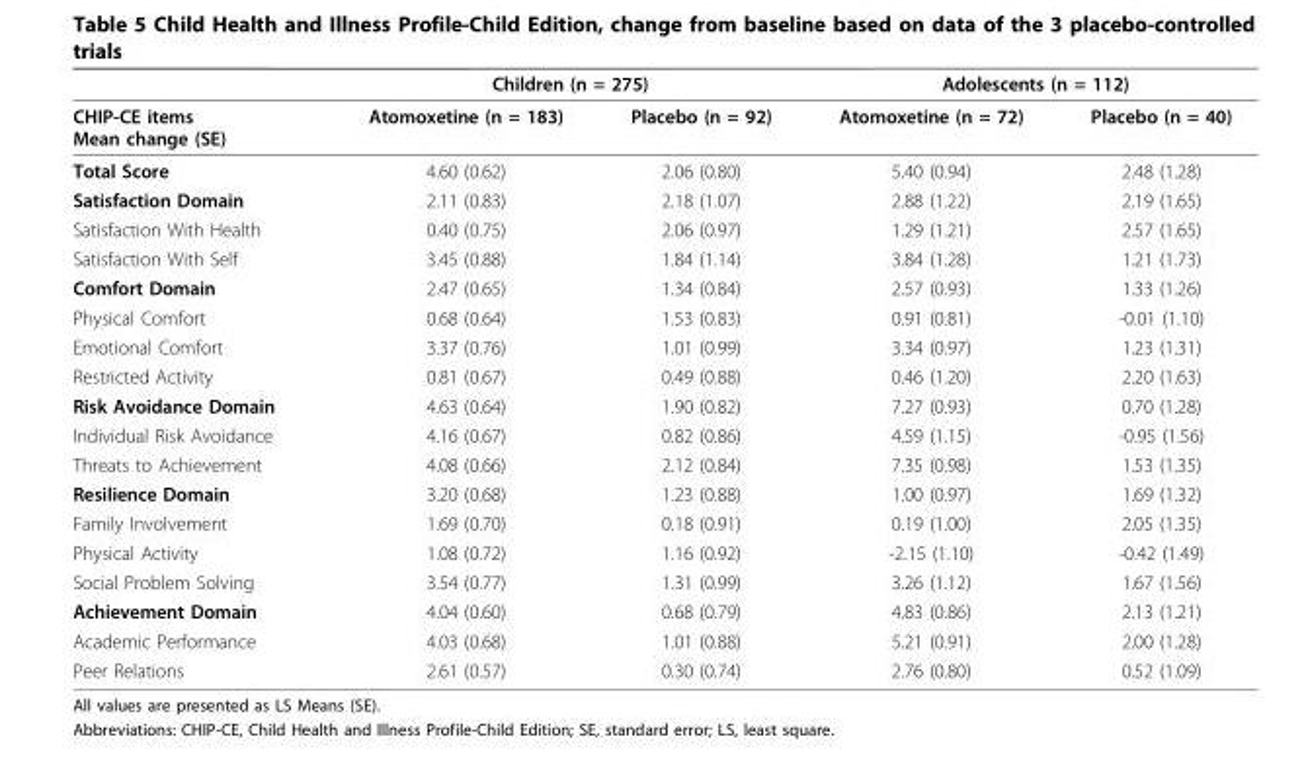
<table><thead><tr><td rowspan="2">CHIP-CE items Mean change (SE)</td><td colspan="2">Children (n = 275)</td><td colspan="2">Adolescents (n = 112)</td></tr><tr><td>Atomoxetine (n = 183)</td><td>Placebo (n = 92)</td><td>Atomoxetine (n = 72)</td><td>Placebo (n = 40)</td></tr></thead><tbody><tr><td>Total Score</td><td>4.60 (0.62)</td><td>2.06 (0.80)</td><td>5.40 (0.94)</td><td>2.48 (1.28)</td></tr><tr><td>Satisfaction Domain</td><td>2.11 (0.83)</td><td>2.18 (1.07)</td><td>2.88 (1.22)</td><td>2.19 (1.65)</td></tr><tr><td>Satisfaction With Health</td><td>0.40 (0.75)</td><td>2.06 (0.97)</td><td>1.29 (1.21)</td><td>2.57 (1.65)</td></tr><tr><td>Satisfaction With Self</td><td>3.45 (0.88)</td><td>1.84 (1.14)</td><td>3.84 (1.28)</td><td>1.21 (1.73)</td></tr><tr><td>Comfort Domain</td><td>2.47 (0.65)</td><td>1.34 (0.84)</td><td>2.57 (0.93)</td><td>1.33 (1.26)</td></tr><tr><td>Physical Comfort</td><td>0.68 (0.64)</td><td>1.53 (0.83)</td><td>0.91 (0.81)</td><td>-0.01 (1.10)</td></tr><tr><td>Emotional Comfort</td><td>3.37 (0.76)</td><td>1.01 (0.99)</td><td>3.34 (0.97)</td><td>1.23 (1.31)</td></tr><tr><td>Restricted Activity</td><td>0.81 (0.67)</td><td>0.49 (0.88)</td><td>0.46 (1.20)</td><td>2.20 (1.63)</td></tr><tr><td>Risk Avoidance Domain</td><td>4.63 (0.64)</td><td>1.90 (0.82)</td><td>7.27 (0.93)</td><td>0.70 (1.28)</td></tr><tr><td>Individual Risk Avoidance</td><td>4.16 (0.67)</td><td>0.82 (0.86)</td><td>4.59 (1.15)</td><td>-0.95 (1.56)</td></tr><tr><td>Threats to Achievement</td><td>4.08 (0.66)</td><td>2.12 (0.84)</td><td>7.35 (0.98)</td><td>1.53 (1.35)</td></tr><tr><td>Resilience Domain</td><td>3.20 (0.68)</td><td>1.23 (0.88)</td><td>1.00 (0.97)</td><td>1.69 (1.32)</td></tr><tr><td>Family Involvement</td><td>1.69 (0.70)</td><td>0.18 (0.91)</td><td>0.19 (1.00)</td><td>2.05 (1.35)</td></tr><tr><td>Physical Activity</td><td>1.08 (0.72)</td><td>1.16 (0.92)</td><td>-2.15 (1.10)</td><td>-0.42 (1.49)</td></tr><tr><td>Social Problem Solving</td><td>3.54 (0.77)</td><td>1.31 (0.99)</td><td>3.26 (1.12)</td><td>1.67 (1.56)</td></tr><tr><td>Achievement Domain</td><td>4.04 (0.60)</td><td>0.68 (0.79)</td><td>4.83 (0.86)</td><td>2.13 (1.21)</td></tr><tr><td>Academic Performance</td><td>4.03 (0.68)</td><td>1.01 (0.88)</td><td>5.21 (0.91)</td><td>2.00 (1.28)</td></tr><tr><td>Peer Relations</td><td>2.61 (0.57)</td><td>0.30 (0.74)</td><td>2.76 (0.80)</td><td>0.52 (1.09)</td></tr></tbody></table>